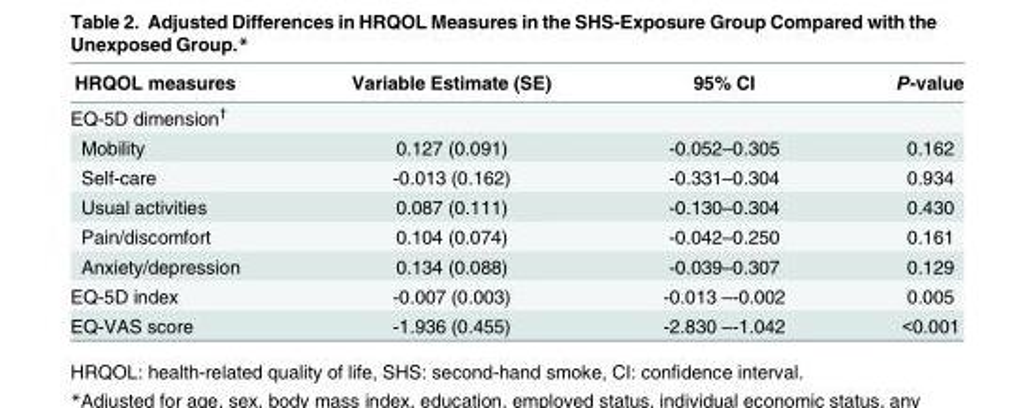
<table><thead><tr><td>HRQOL measures</td><td>Variable Estimate (SE)</td><td>95% CI</td><td>P-value</td></tr></thead><tbody><tr><td colspan="4">EQ-5D dimension<sup>†</sup></td></tr><tr><td>Mobility</td><td>0.127 (0.091)</td><td>-0.052–0.305</td><td>0.162</td></tr><tr><td>Self-care</td><td>-0.013 (0.162)</td><td>-0.331–0.304</td><td>0.934</td></tr><tr><td>Usual activities</td><td>0.087 (0.111)</td><td>-0.130–0.304</td><td>0.430</td></tr><tr><td>Pain/discomfort</td><td>0.104 (0.074)</td><td>-0.042–0.250</td><td>0.161</td></tr><tr><td>Anxiety/depression</td><td>0.134 (0.088)</td><td>-0.039–0.307</td><td>0.129</td></tr><tr><td>EQ-5D index</td><td>-0.007 (0.003)</td><td>-0.013 –-0.002</td><td>0.005</td></tr><tr><td>EQ-VAS score</td><td>-1.936 (0.455)</td><td>-2.830 –-1.042</td><td>&lt;0.001</td></tr></tbody></table>